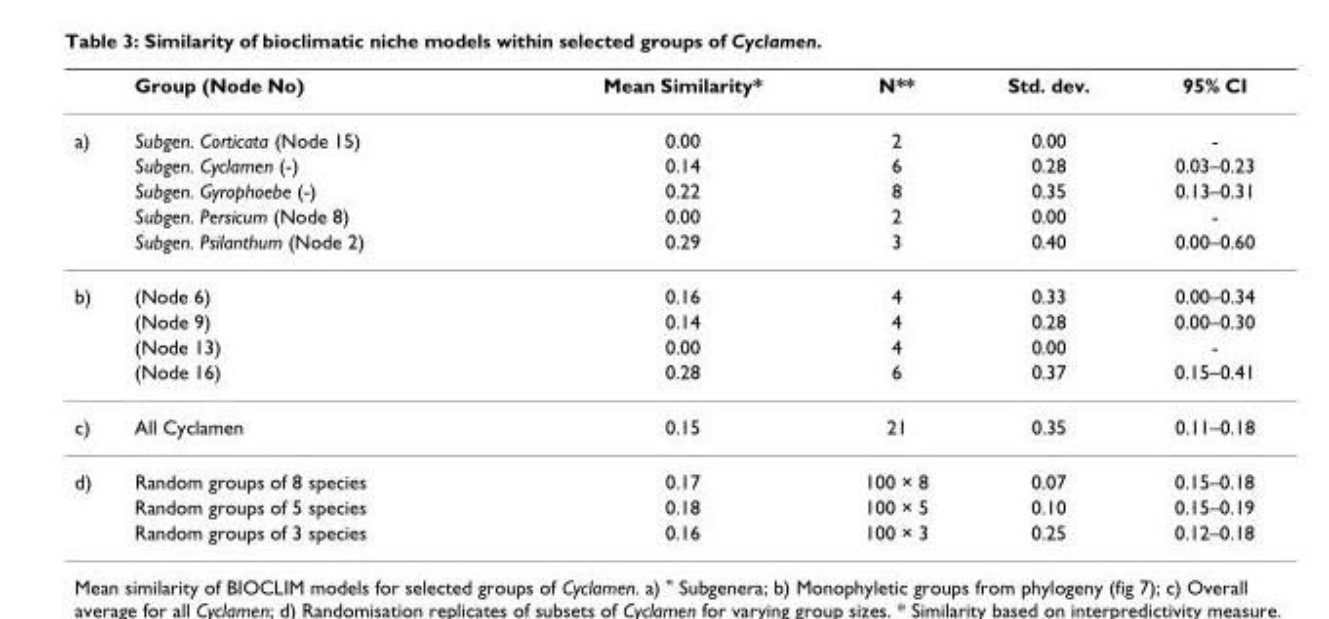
<table><thead><tr><td></td><td>Group (Node No)</td><td>Mean Similarity*</td><td>N**</td><td>Std. dev.</td><td>95% CI</td></tr></thead><tbody><tr><td rowspan="5">a)</td><td>Subgen. Corticata (Node 15)</td><td>0.00</td><td>2</td><td>0.00</td><td>-</td></tr><tr><td>Subgen. Cyclamen (-)</td><td>0.14</td><td>6</td><td>0.28</td><td>0.03–0.23</td></tr><tr><td>Subgen. Gyrophoebe (-)</td><td>0.22</td><td>8</td><td>0.35</td><td>0.13–0.31</td></tr><tr><td>Subgen. Persicum (Node 8)</td><td>0.00</td><td>2</td><td>0.00</td><td>-</td></tr><tr><td>Subgen. Psilanthum (Node 2)</td><td>0.29</td><td>3</td><td>0.40</td><td>0.00–0.60</td></tr><tr><td rowspan="4">b)</td><td>(Node 6)</td><td>0.16</td><td>4</td><td>0.33</td><td>0.00–0.34</td></tr><tr><td>(Node 9)</td><td>0.14</td><td>4</td><td>0.28</td><td>0.00–0.30</td></tr><tr><td>(Node 13)</td><td>0.00</td><td>4</td><td>0.00</td><td>-</td></tr><tr><td>(Node 16)</td><td>0.28</td><td>6</td><td>0.37</td><td>0.15–0.41</td></tr><tr><td>c)</td><td>All Cyclamen</td><td>0.15</td><td>21</td><td>0.35</td><td>0.11–0.18</td></tr><tr><td rowspan="3">d)</td><td>Random groups of 8 species</td><td>0.17</td><td>100 × 8</td><td>0.07</td><td>0.15–0.18</td></tr><tr><td>Random groups of 5 species</td><td>0.18</td><td>100 × 5</td><td>0.10</td><td>0.15–0.19</td></tr><tr><td>Random groups of 3 species</td><td>0.16</td><td>100 × 3</td><td>0.25</td><td>0.12–0.18</td></tr></tbody></table>